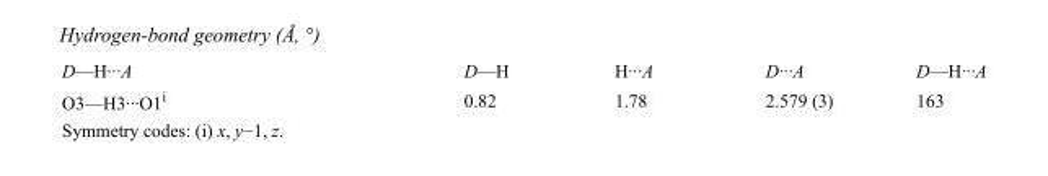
<table><tbody><tr><td>D—H···A</td><td>D—H</td><td>H···A</td><td>D···A</td><td>D—H···A</td></tr><tr><td>O3—H3···O1<sup>i</sup></td><td>0.82</td><td>1.78</td><td>2.579 (3)</td><td>163</td></tr></tbody></table>